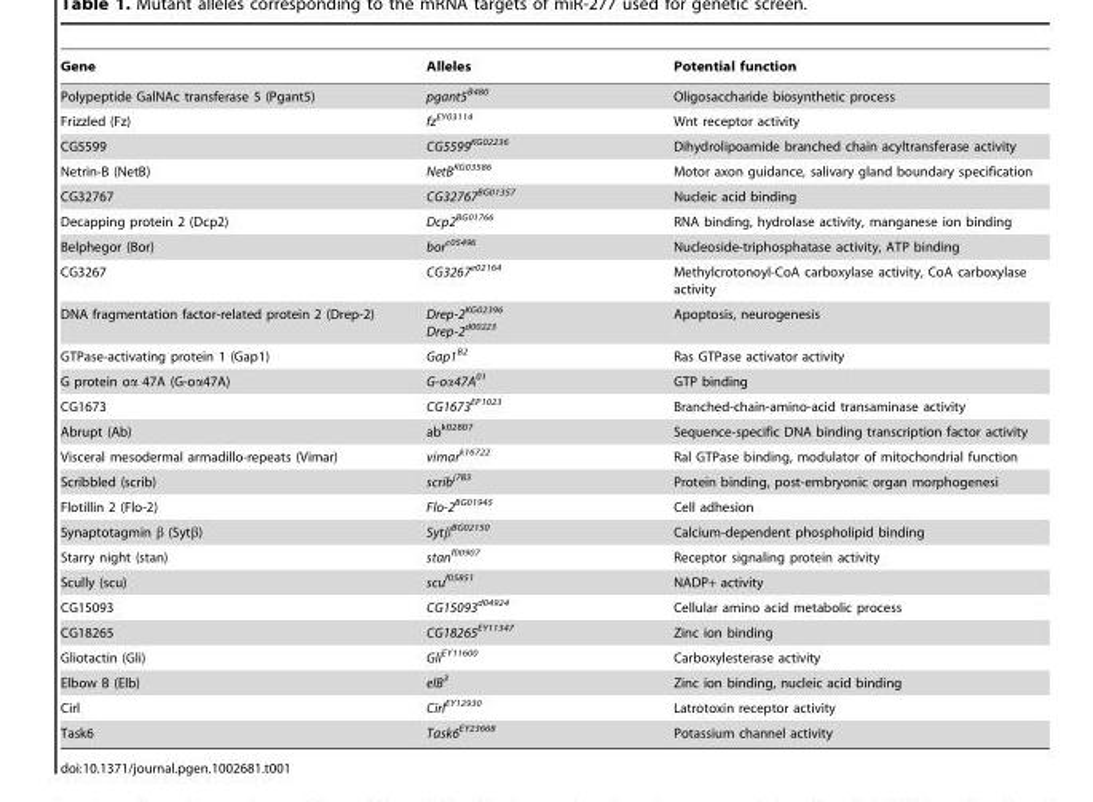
<table><thead><tr><td>Gene</td><td>Alleles</td><td>Potential function</td></tr></thead><tbody><tr><td>Polypeptide GalNAc transferase 5 (Pgant5)</td><td>pgant5<sup>B480</sup></td><td>Oligosaccharide biosynthetic process</td></tr><tr><td>Frizzled (Fz)</td><td>fz<sup>EY03114</sup></td><td>Wnt receptor activity</td></tr><tr><td>CG5599</td><td>CG5599<sup>KG02236</sup></td><td>Dihydrolipoamide branched chain acyltransferase activity</td></tr><tr><td>Netrin-B (NetB)</td><td>NetB<sup>KG03586</sup></td><td>Motor axon guidance, salivary gland boundary specification</td></tr><tr><td>CG32767</td><td>CG32767<sup>BG01357</sup></td><td>Nucleic acid binding</td></tr><tr><td>Decapping protein 2 (Dcp2)</td><td>Dcp2<sup>BG01766</sup></td><td>RNA binding, hydrolase activity, manganese ion binding</td></tr><tr><td>Belphegor (Bor)</td><td>bor<sup>c05496</sup></td><td>Nucleoside-triphosphatase activity, ATP binding</td></tr><tr><td>CG3267</td><td>CG3267<sup>e02164</sup></td><td>Methylcrotonoyl-CoA carboxylase activity, CoA carboxylase activity</td></tr><tr><td>DNA fragmentation factor-related protein 2 (Drep-2)</td><td>Drep-2<sup>KG02396</sup> Drep-2<sup>d00223</sup></td><td>Apoptosis, neurogenesis</td></tr><tr><td>GTPase-activating protein 1 (Gap1)</td><td>Gap1<sup>B2</sup></td><td>Ras GTPase activator activity</td></tr><tr><td>G protein oα 47A (G-oα47A)</td><td>G-oα47A<sup>01</sup></td><td>GTP binding</td></tr><tr><td>CG1673</td><td>CG1673<sup>EP1023</sup></td><td>Branched-chain-amino-acid transaminase activity</td></tr><tr><td>Abrupt (Ab)</td><td>ab<sup>k02807</sup></td><td>Sequence-specific DNA binding transcription factor activity</td></tr><tr><td>Visceral mesodermal armadillo-repeats (Vimar)</td><td>vimar<sup>k16722</sup></td><td>Ral GTPase binding, modulator of mitochondrial function</td></tr><tr><td>Scribbled (scrib)</td><td>scrib<sup>j7B3</sup></td><td>Protein binding, post-embryonic organ morphogenesi</td></tr><tr><td>Flotillin 2 (Flo-2)</td><td>Flo-2<sup>BG01945</sup></td><td>Cell adhesion</td></tr><tr><td>Synaptotagmin β (Sytβ)</td><td>Sytβ<sup>BG02150</sup></td><td>Calcium-dependent phospholipid binding</td></tr><tr><td>Starry night (stan)</td><td>stan<sup>f00907</sup></td><td>Receptor signaling protein activity</td></tr><tr><td>Scully (scu)</td><td>scu<sup>f05851</sup></td><td>NADP+ activity</td></tr><tr><td>CG15093</td><td>CG15093<sup>d04924</sup></td><td>Cellular amino acid metabolic process</td></tr><tr><td>CG18265</td><td>CG18265<sup>EY11347</sup></td><td>Zinc ion binding</td></tr><tr><td>Gliotactin (Gli)</td><td>Gli<sup>EY11600</sup></td><td>Carboxylesterase activity</td></tr><tr><td>Elbow B (Elb)</td><td>elB<sup>3</sup></td><td>Zinc ion binding, nucleic acid binding</td></tr><tr><td>Cirl</td><td>Cirl<sup>EY12930</sup></td><td>Latrotoxin receptor activity</td></tr><tr><td>Task6</td><td>Task6<sup>EY23668</sup></td><td>Potassium channel activity</td></tr></tbody></table>